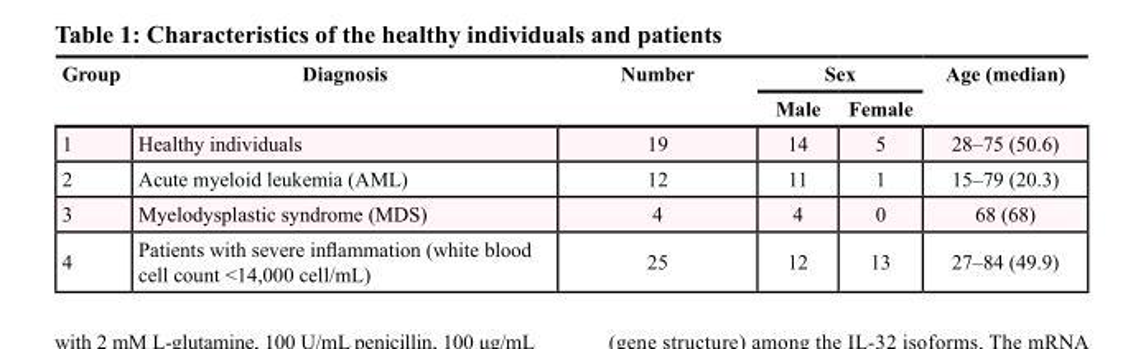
<table><thead><tr><td rowspan="2">Group</td><td rowspan="2">Diagnosis</td><td rowspan="2">Number</td><td colspan="2">Sex</td><td rowspan="2">Age (median)</td></tr><tr><td>Male</td><td>Female</td></tr></thead><tbody><tr><td>1</td><td>Healthy individuals</td><td>19</td><td>14</td><td>5</td><td>28–75 (50.6)</td></tr><tr><td>2</td><td>Acute myeloid leukemia (AML)</td><td>12</td><td>11</td><td>1</td><td>15–79 (20.3)</td></tr><tr><td>3</td><td>Myelodysplastic syndrome (MDS)</td><td>4</td><td>4</td><td>0</td><td>68 (68)</td></tr><tr><td>4</td><td>Patients with severe inflammation (white blood cell count &lt;14,000 cell/mL)</td><td>25</td><td>12</td><td>13</td><td>27–84 (49.9)</td></tr></tbody></table>